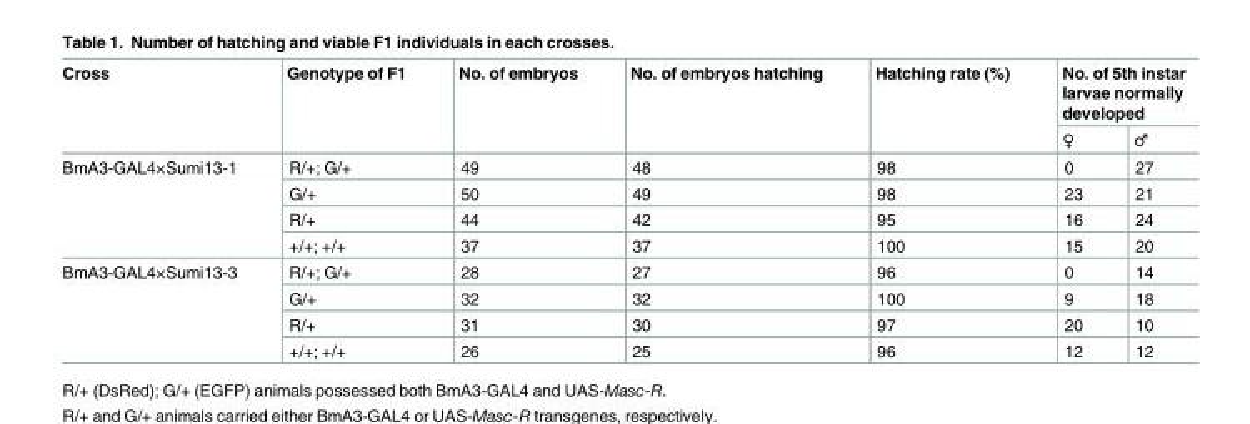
<table><thead><tr><td rowspan="2">Cross</td><td rowspan="2">Genotype of F1</td><td rowspan="2">No. of embryos</td><td rowspan="2">No. of embryos hatching</td><td rowspan="2">Hatching rate (%)</td><td colspan="2">No. of 5th instar larvae normally developed</td></tr><tr><td>♀</td><td>♂</td></tr></thead><tbody><tr><td rowspan="4">BmA3-GAL4×Sumi13-1</td><td>R/+; G/+</td><td>49</td><td>48</td><td>98</td><td>0</td><td>27</td></tr><tr><td>G/+</td><td>50</td><td>49</td><td>98</td><td>23</td><td>21</td></tr><tr><td>R/+</td><td>44</td><td>42</td><td>95</td><td>16</td><td>24</td></tr><tr><td>+/+; +/+</td><td>37</td><td>37</td><td>100</td><td>15</td><td>20</td></tr><tr><td rowspan="4">BmA3-GAL4×Sumi13-3</td><td>R/+; G/+</td><td>28</td><td>27</td><td>96</td><td>0</td><td>14</td></tr><tr><td>G/+</td><td>32</td><td>32</td><td>100</td><td>9</td><td>18</td></tr><tr><td>R/+</td><td>31</td><td>30</td><td>97</td><td>20</td><td>10</td></tr><tr><td>+/+; +/+</td><td>26</td><td>25</td><td>96</td><td>12</td><td>12</td></tr></tbody></table>